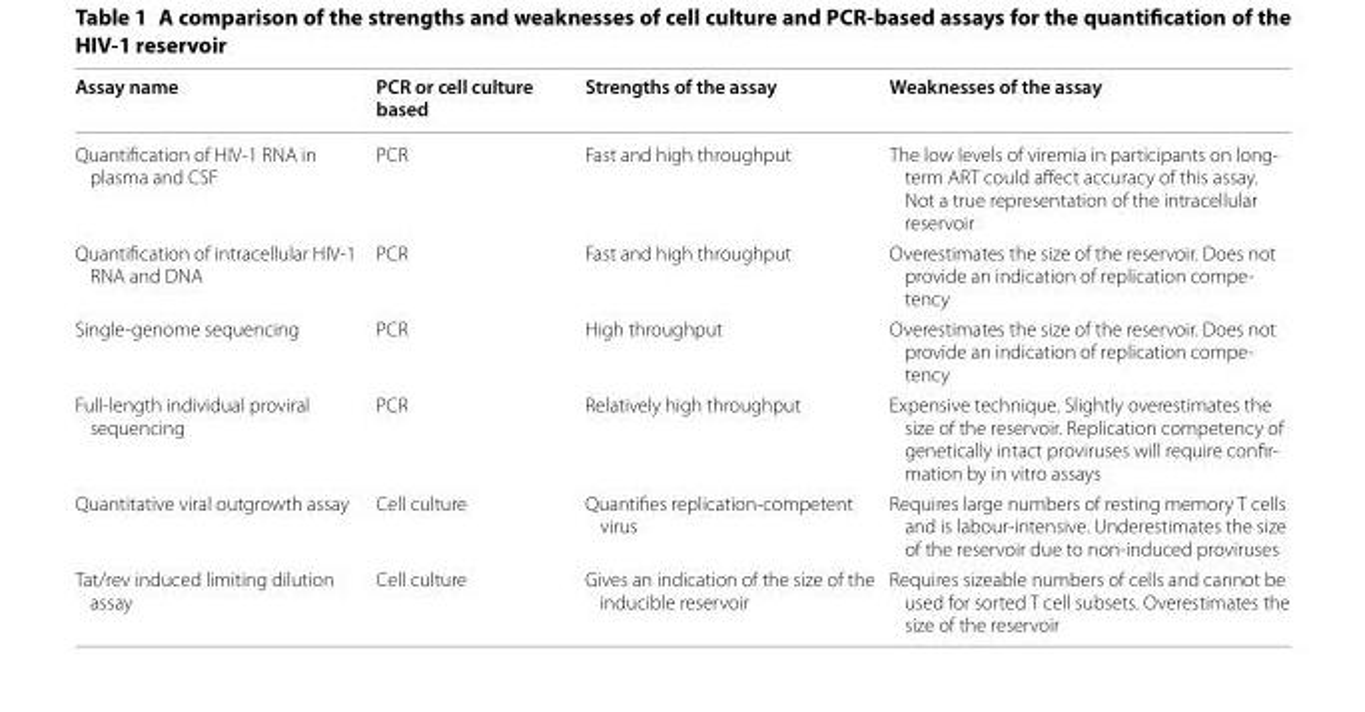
<table><thead><tr><td>Assay name</td><td>PCR or cell culture based</td><td>Strengths of the assay</td><td>Weaknesses of the assay</td></tr></thead><tbody><tr><td>Quantification of HIV-1 RNA in plasma and CSF</td><td>PCR</td><td>Fast and high throughput</td><td>The low levels of viremia in participants on long- term ART could affect accuracy of this assay. Not a true representation of the intracellular reservoir</td></tr><tr><td>Quantification of intracellular HIV-1 RNA and DNA</td><td>PCR</td><td>Fast and high throughput</td><td>Overestimates the size of the reservoir. Does not provide an indication of replication compe- tency</td></tr><tr><td>Single-genome sequencing</td><td>PCR</td><td>High throughput</td><td>Overestimates the size of the reservoir. Does not provide an indication of replication compe- tency</td></tr><tr><td>Full-length individual proviral sequencing</td><td>PCR</td><td>Relatively high throughput</td><td>Expensive technique. Slightly overestimates the size of the reservoir. Replication competency of genetically intact proviruses will require confir- mation by in vitro assays</td></tr><tr><td>Quantitative viral outgrowth assay</td><td>Cell culture</td><td>Quantifies replication-competent virus</td><td>Requires large numbers of resting memory T cells and is labour-intensive. Underestimates the size of the reservoir due to non-induced proviruses</td></tr><tr><td>Tat/rev induced limiting dilution assay</td><td>Cell culture</td><td>Gives an indication of the size of the inducible reservoir</td><td>Requires sizeable numbers of cells and cannot be used for sorted T cell subsets. Overestimates the size of the reservoir</td></tr></tbody></table>